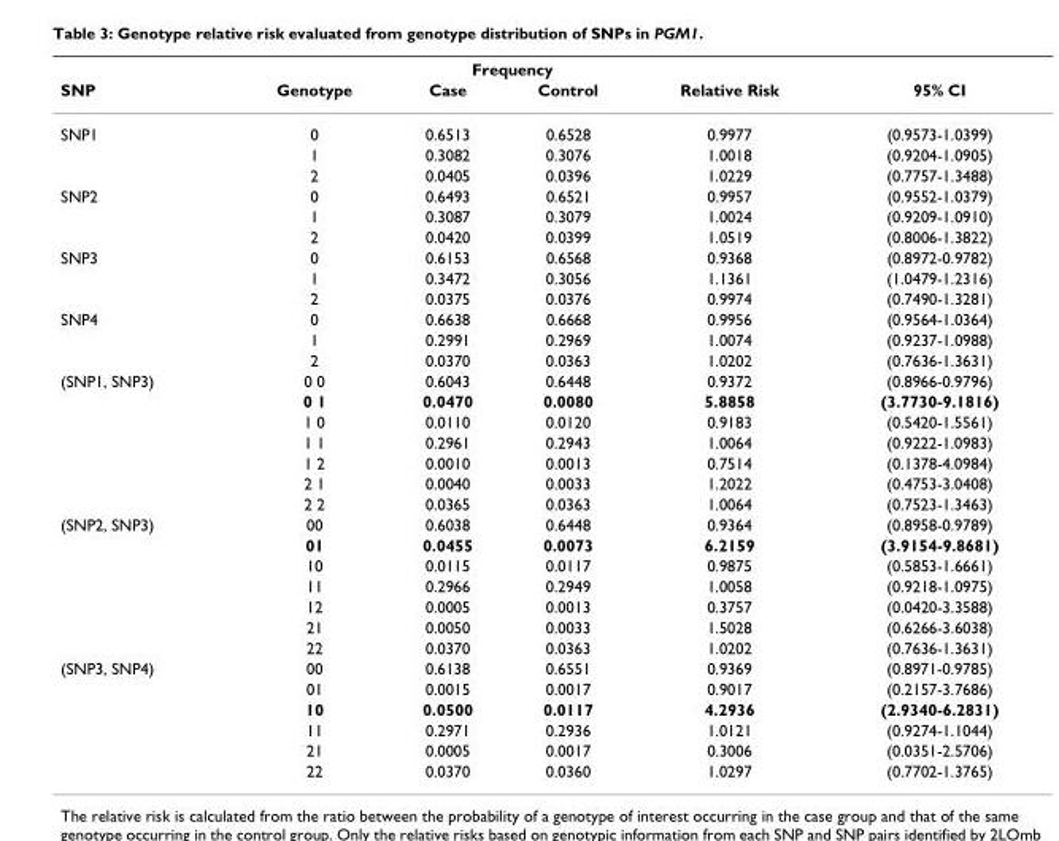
<table><thead><tr><td rowspan="2">SNP</td><td rowspan="2">Genotype</td><td colspan="2">Frequency</td><td rowspan="2">Relative Risk</td><td rowspan="2">95% CI</td></tr><tr><td>Case</td><td>Control</td></tr></thead><tbody><tr><td rowspan="3">SNP1</td><td>0</td><td>0.6513</td><td>0.6528</td><td>0.9977</td><td>(0.9573-1.0399)</td></tr><tr><td>1</td><td>0.3082</td><td>0.3076</td><td>1.0018</td><td>(0.9204-1.0905)</td></tr><tr><td>2</td><td>0.0405</td><td>0.0396</td><td>1.0229</td><td>(0.7757-1.3488)</td></tr><tr><td rowspan="3">SNP2</td><td>0</td><td>0.6493</td><td>0.6521</td><td>0.9957</td><td>(0.9552-1.0379)</td></tr><tr><td>1</td><td>0.3087</td><td>0.3079</td><td>1.0024</td><td>(0.9209-1.0910)</td></tr><tr><td>2</td><td>0.0420</td><td>0.0399</td><td>1.0519</td><td>(0.8006-1.3822)</td></tr><tr><td rowspan="3">SNP3</td><td>0</td><td>0.6153</td><td>0.6568</td><td>0.9368</td><td>(0.8972-0.9782)</td></tr><tr><td>1</td><td>0.3472</td><td>0.3056</td><td>1.1361</td><td>(1.0479-1.2316)</td></tr><tr><td>2</td><td>0.0375</td><td>0.0376</td><td>0.9974</td><td>(0.7490-1.3281)</td></tr><tr><td rowspan="3">SNP4</td><td>0</td><td>0.6638</td><td>0.6668</td><td>0.9956</td><td>(0.9564-1.0364)</td></tr><tr><td>1</td><td>0.2991</td><td>0.2969</td><td>1.0074</td><td>(0.9237-1.0988)</td></tr><tr><td>2</td><td>0.0370</td><td>0.0363</td><td>1.0202</td><td>(0.7636-1.3631)</td></tr><tr><td rowspan="7">(SNP1, SNP3)</td><td>0 0</td><td>0.6043</td><td>0.6448</td><td>0.9372</td><td>(0.8966-0.9796)</td></tr><tr><td>0 1</td><td>0.0470</td><td>0.0080</td><td>5.8858</td><td>(3.7730-9.1816)</td></tr><tr><td>1 0</td><td>0.0110</td><td>0.0120</td><td>0.9183</td><td>(0.5420-1.5561)</td></tr><tr><td>1 1</td><td>0.2961</td><td>0.2943</td><td>1.0064</td><td>(0.9222-1.0983)</td></tr><tr><td>1 2</td><td>0.0010</td><td>0.0013</td><td>0.7514</td><td>(0.1378-4.0984)</td></tr><tr><td>2 1</td><td>0.0040</td><td>0.0033</td><td>1.2022</td><td>(0.4753-3.0408)</td></tr><tr><td>2 2</td><td>0.0365</td><td>0.0363</td><td>1.0064</td><td>(0.7523-1.3463)</td></tr><tr><td rowspan="7">(SNP2, SNP3)</td><td>00</td><td>0.6038</td><td>0.6448</td><td>0.9364</td><td>(0.8958-0.9789)</td></tr><tr><td>01</td><td>0.0455</td><td>0.0073</td><td>6.2159</td><td>(3.9154-9.8681)</td></tr><tr><td>10</td><td>0.0115</td><td>0.0117</td><td>0.9875</td><td>(0.5853-1.6661)</td></tr><tr><td>11</td><td>0.2966</td><td>0.2949</td><td>1.0058</td><td>(0.9218-1.0975)</td></tr><tr><td>12</td><td>0.0005</td><td>0.0013</td><td>0.3757</td><td>(0.0420-3.3588)</td></tr><tr><td>21</td><td>0.0050</td><td>0.0033</td><td>1.5028</td><td>(0.6266-3.6038)</td></tr><tr><td>22</td><td>0.0370</td><td>0.0363</td><td>1.0202</td><td>(0.7636-1.3631)</td></tr><tr><td rowspan="6">(SNP3, SNP4)</td><td>00</td><td>0.6138</td><td>0.6551</td><td>0.9369</td><td>(0.8971-0.9785)</td></tr><tr><td>01</td><td>0.0015</td><td>0.0017</td><td>0.9017</td><td>(0.2157-3.7686)</td></tr><tr><td>10</td><td>0.0500</td><td>0.0117</td><td>4.2936</td><td>(2.9340-6.2831)</td></tr><tr><td>11</td><td>0.2971</td><td>0.2936</td><td>1.0121</td><td>(0.9274-1.1044)</td></tr><tr><td>21</td><td>0.0005</td><td>0.0017</td><td>0.3006</td><td>(0.0351-2.5706)</td></tr><tr><td>22</td><td>0.0370</td><td>0.0360</td><td>1.0297</td><td>(0.7702-1.3765)</td></tr></tbody></table>